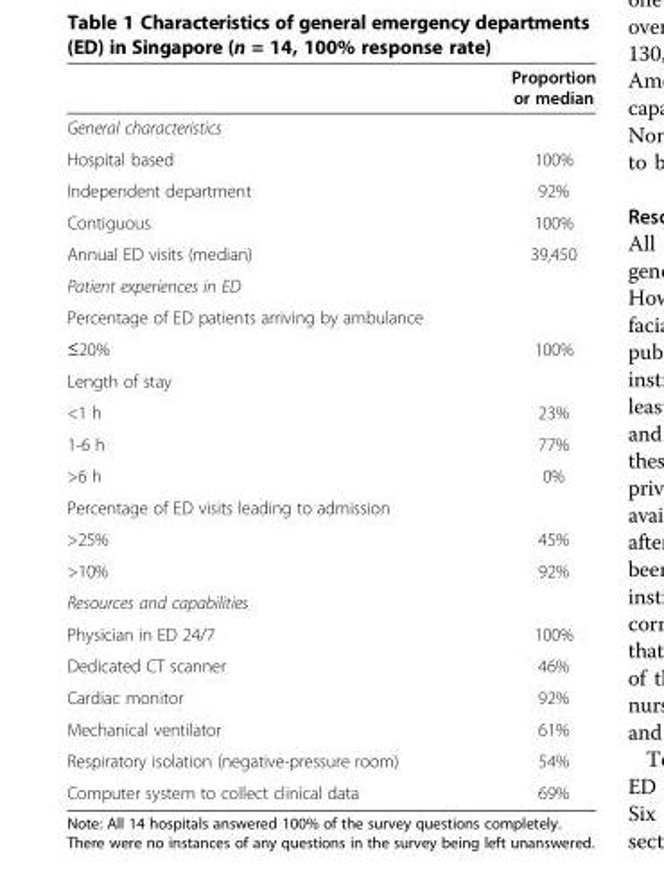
<table><thead><tr><td></td><td>Proportion or median</td></tr></thead><tbody><tr><td colspan="2">General characteristics</td></tr><tr><td>Hospital based</td><td>100%</td></tr><tr><td>Independent department</td><td>92%</td></tr><tr><td>Contiguous</td><td>100%</td></tr><tr><td>Annual ED visits (median)</td><td>39,450</td></tr><tr><td colspan="2">Patient experiences in ED</td></tr><tr><td colspan="2">Percentage of ED patients arriving by ambulance</td></tr><tr><td>≤20%</td><td>100%</td></tr><tr><td colspan="2">Length of stay</td></tr><tr><td>&lt;1 h</td><td>23%</td></tr><tr><td>1-6 h</td><td>77%</td></tr><tr><td>&gt;6 h</td><td>0%</td></tr><tr><td colspan="2">Percentage of ED visits leading to admission</td></tr><tr><td>&gt;25%</td><td>45%</td></tr><tr><td>&gt;10%</td><td>92%</td></tr><tr><td colspan="2">Resources and capabilities</td></tr><tr><td>Physician in ED 24/7</td><td>100%</td></tr><tr><td>Dedicated CT scanner</td><td>46%</td></tr><tr><td>Cardiac monitor</td><td>92%</td></tr><tr><td>Mechanical ventilator</td><td>61%</td></tr><tr><td>Respiratory isolation (negative-pressure room)</td><td>54%</td></tr><tr><td>Computer system to collect clinical data</td><td>69%</td></tr></tbody></table>